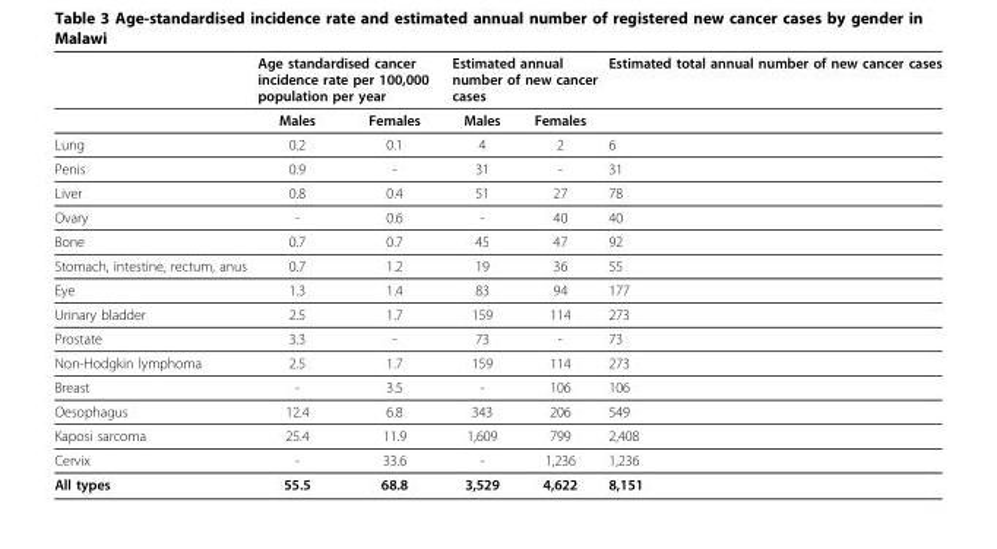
<table><thead><tr><td rowspan="2"></td><td colspan="2">Age standardised cancer incidence rate per 100,000 population per year</td><td colspan="2">Estimated annual number of new cancer cases</td><td rowspan="2">Estimated total annual number of new cancer cases</td></tr><tr><td>Males</td><td>Females</td><td>Males</td><td>Females</td></tr></thead><tbody><tr><td>Lung</td><td>0.2</td><td>0.1</td><td>4</td><td>2</td><td>6</td></tr><tr><td>Penis</td><td>0.9</td><td>-</td><td>31</td><td>-</td><td>31</td></tr><tr><td>Liver</td><td>0.8</td><td>0.4</td><td>51</td><td>27</td><td>78</td></tr><tr><td>Ovary</td><td>-</td><td>0.6</td><td>-</td><td>40</td><td>40</td></tr><tr><td>Bone</td><td>0.7</td><td>0.7</td><td>45</td><td>47</td><td>92</td></tr><tr><td>Stomach, intestine, rectum, anus</td><td>0.7</td><td>1.2</td><td>19</td><td>36</td><td>55</td></tr><tr><td>Eye</td><td>1.3</td><td>1.4</td><td>83</td><td>94</td><td>177</td></tr><tr><td>Urinary bladder</td><td>2.5</td><td>1.7</td><td>159</td><td>114</td><td>273</td></tr><tr><td>Prostate</td><td>3.3</td><td>-</td><td>73</td><td>-</td><td>73</td></tr><tr><td>Non-Hodgkin lymphoma</td><td>2.5</td><td>1.7</td><td>159</td><td>114</td><td>273</td></tr><tr><td>Breast</td><td>-</td><td>3.5</td><td>-</td><td>106</td><td>106</td></tr><tr><td>Oesophagus</td><td>12.4</td><td>6.8</td><td>343</td><td>206</td><td>549</td></tr><tr><td>Kaposi sarcoma</td><td>25.4</td><td>11.9</td><td>1,609</td><td>799</td><td>2,408</td></tr><tr><td>Cervix</td><td>-</td><td>33.6</td><td>-</td><td>1,236</td><td>1,236</td></tr><tr><td>All types</td><td>55.5</td><td>68.8</td><td>3,529</td><td>4,622</td><td>8,151</td></tr></tbody></table>